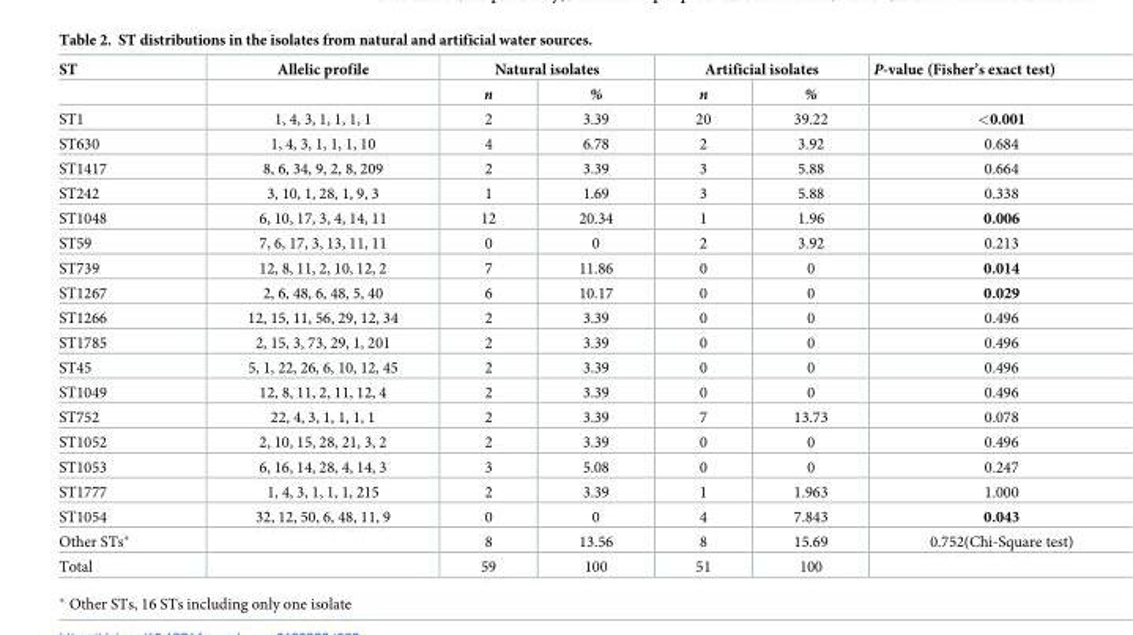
<table><thead><tr><td rowspan="2">ST</td><td rowspan="2">Allelic profile</td><td colspan="2">Natural isolates</td><td colspan="2">Artificial isolates</td><td rowspan="2">P-value (Fisher’s exact test)</td></tr><tr><td>n</td><td>%</td><td>n</td><td>%</td></tr></thead><tbody><tr><td>ST1</td><td>1, 4, 3, 1, 1, 1, 1</td><td>2</td><td>3.39</td><td>20</td><td>39.22</td><td>&lt;0.001</td></tr><tr><td>ST630</td><td>1, 4, 3, 1, 1, 1, 10</td><td>4</td><td>6.78</td><td>2</td><td>3.92</td><td>0.684</td></tr><tr><td>ST1417</td><td>8, 6, 34, 9, 2, 8, 209</td><td>2</td><td>3.39</td><td>3</td><td>5.88</td><td>0.664</td></tr><tr><td>ST242</td><td>3, 10, 1, 28, 1, 9, 3</td><td>1</td><td>1.69</td><td>3</td><td>5.88</td><td>0.338</td></tr><tr><td>ST1048</td><td>6, 10, 17, 3, 4, 14, 11</td><td>12</td><td>20.34</td><td>1</td><td>1.96</td><td>0.006</td></tr><tr><td>ST59</td><td>7, 6, 17, 3, 13, 11, 11</td><td>0</td><td>0</td><td>2</td><td>3.92</td><td>0.213</td></tr><tr><td>ST739</td><td>12, 8, 11, 2, 10, 12, 2</td><td>7</td><td>11.86</td><td>0</td><td>0</td><td>0.014</td></tr><tr><td>ST1267</td><td>2, 6, 48, 6, 48, 5, 40</td><td>6</td><td>10.17</td><td>0</td><td>0</td><td>0.029</td></tr><tr><td>ST1266</td><td>12, 15, 11, 56, 29, 12, 34</td><td>2</td><td>3.39</td><td>0</td><td>0</td><td>0.496</td></tr><tr><td>ST1785</td><td>2, 15, 3, 73, 29, 1, 201</td><td>2</td><td>3.39</td><td>0</td><td>0</td><td>0.496</td></tr><tr><td>ST45</td><td>5, 1, 22, 26, 6, 10, 12, 45</td><td>2</td><td>3.39</td><td>0</td><td>0</td><td>0.496</td></tr><tr><td>ST1049</td><td>12, 8, 11, 2, 11, 12, 4</td><td>2</td><td>3.39</td><td>0</td><td>0</td><td>0.496</td></tr><tr><td>ST752</td><td>22, 4, 3, 1, 1, 1, 1</td><td>2</td><td>3.39</td><td>7</td><td>13.73</td><td>0.078</td></tr><tr><td>ST1052</td><td>2, 10, 15, 28, 21, 3, 2</td><td>2</td><td>3.39</td><td>0</td><td>0</td><td>0.496</td></tr><tr><td>ST1053</td><td>6, 16, 14, 28, 4, 14, 3</td><td>3</td><td>5.08</td><td>0</td><td>0</td><td>0.247</td></tr><tr><td>ST1777</td><td>1, 4, 3, 1, 1, 1, 215</td><td>2</td><td>3.39</td><td>1</td><td>1.963</td><td>1.000</td></tr><tr><td>ST1054</td><td>32, 12, 50, 6, 48, 11, 9</td><td>0</td><td>0</td><td>4</td><td>7.843</td><td>0.043</td></tr><tr><td>Other STs*</td><td></td><td>8</td><td>13.56</td><td>8</td><td>15.69</td><td>0.752(Chi-Square test)</td></tr><tr><td>Total</td><td></td><td>59</td><td>100</td><td>51</td><td>100</td><td></td></tr></tbody></table>